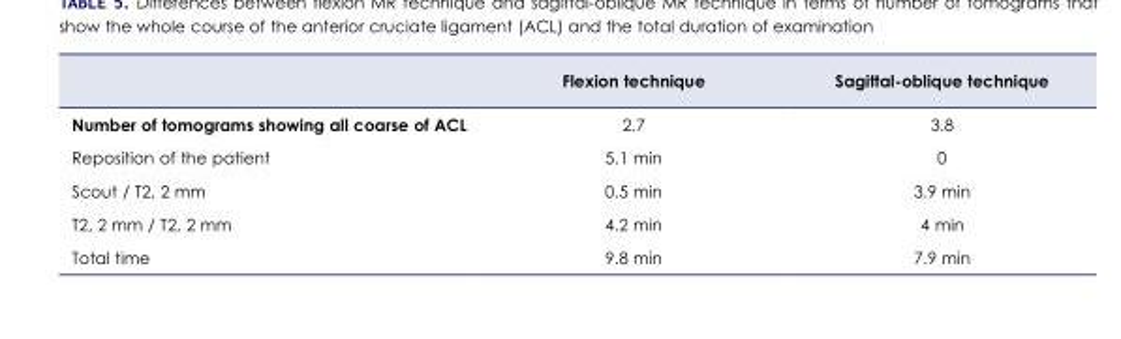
<table><thead><tr><td></td><td>Flexion technique</td><td>Sagittal-oblique technique</td></tr></thead><tbody><tr><td>Number of tomograms showing all coarse of ACL</td><td>2.7</td><td>3.8</td></tr><tr><td>Reposition of the patient</td><td>5.1 min</td><td>0</td></tr><tr><td>Scout / T2, 2 mm</td><td>0.5 min</td><td>3.9 min</td></tr><tr><td>T2, 2 mm / T2, 2 mm</td><td>4.2 min</td><td>4 min</td></tr><tr><td>Total time</td><td>9.8 min</td><td>7.9 min</td></tr></tbody></table>